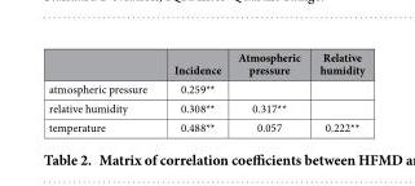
<table><thead><tr><td></td><td>Incidence</td><td>Atmospheric pressure</td><td>Relative humidity</td></tr></thead><tbody><tr><td>atmospheric pressure</td><td>0.259**</td><td></td><td></td></tr><tr><td>relative humidity</td><td>0.308**</td><td>0.317**</td><td></td></tr><tr><td>temperature</td><td>0.488**</td><td>0.057</td><td>0.222**</td></tr></tbody></table>